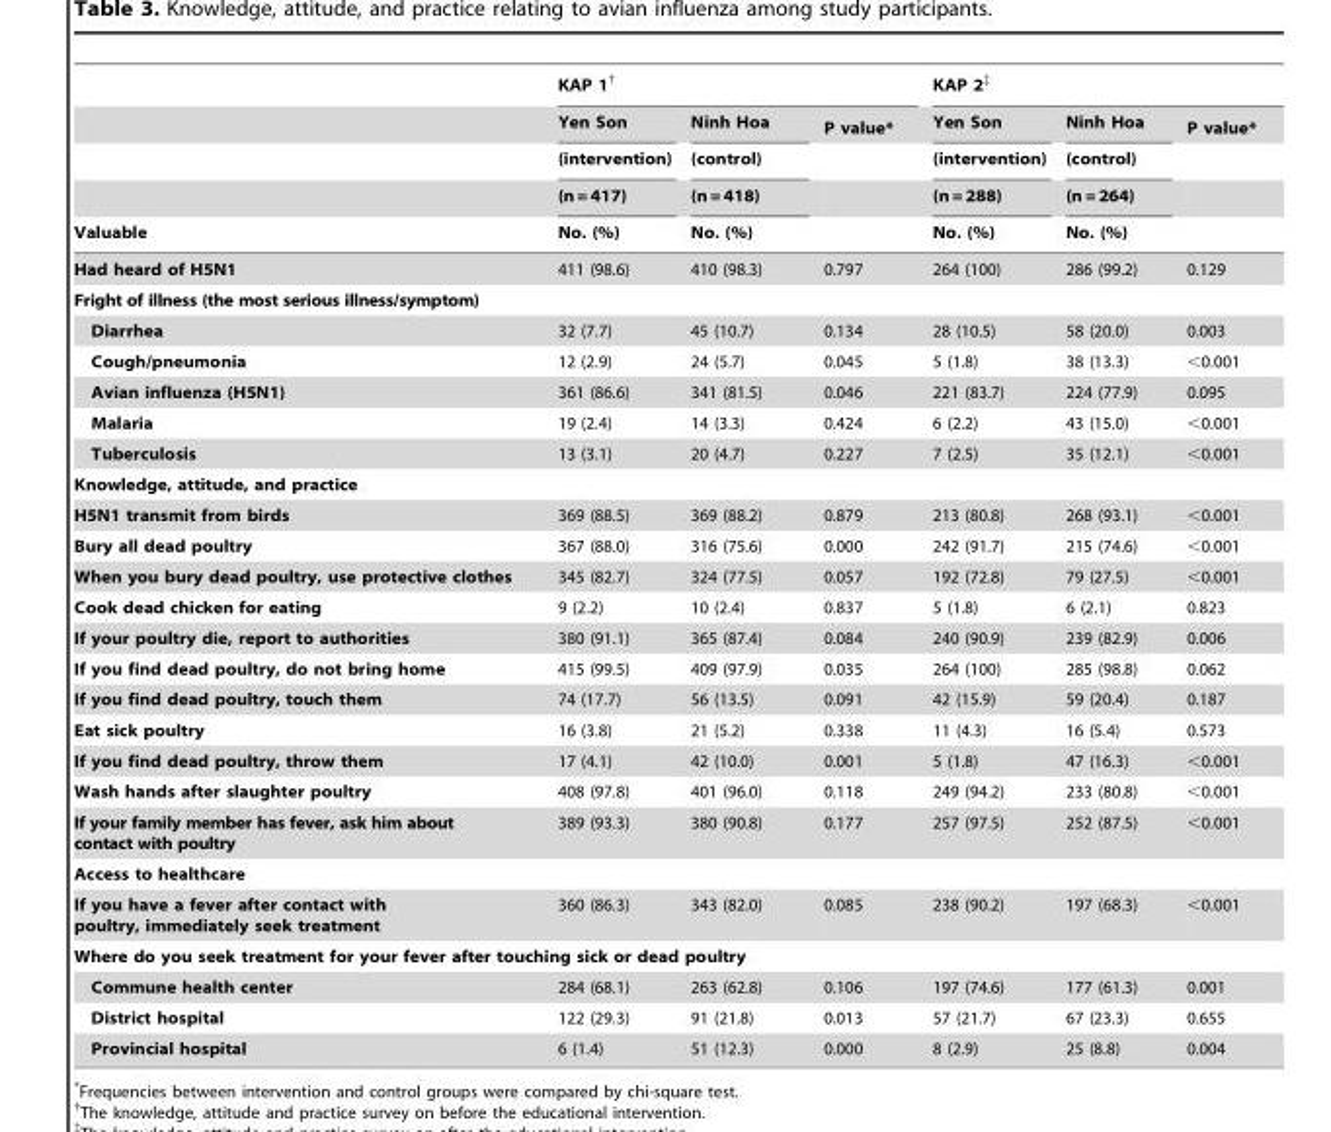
<table><thead><tr><td rowspan="5">Valuable</td><td colspan="3">KAP 1†</td><td colspan="3">KAP 2‡</td></tr><tr><td rowspan="4">Yen Son (intervention) (n = 417) No. (%)</td><td rowspan="4">Ninh Hoa (control) (n = 418) No. (%)</td><td rowspan="4">P value*</td><td rowspan="4">Yen Son (intervention) (n = 288) No. (%)</td><td rowspan="4">Ninh Hoa (control) (n = 264) No. (%)</td><td rowspan="4">P value*</td></tr><tr></tr><tr></tr><tr></tr></thead><tbody><tr><td>Had heard of H5N1</td><td>411 (98.6)</td><td>410 (98.3)</td><td>0.797</td><td>264 (100)</td><td>286 (99.2)</td><td>0.129</td></tr><tr><td colspan="7">Fright of illness (the most serious illness/symptom)</td></tr><tr><td>Diarrhea</td><td>32 (7.7)</td><td>45 (10.7)</td><td>0.134</td><td>28 (10.5)</td><td>58 (20.0)</td><td>0.003</td></tr><tr><td>Cough/pneumonia</td><td>12 (2.9)</td><td>24 (5.7)</td><td>0.045</td><td>5 (1.8)</td><td>38 (13.3)</td><td>&lt;0.001</td></tr><tr><td>Avian influenza (H5N1)</td><td>361 (86.6)</td><td>341 (81.5)</td><td>0.046</td><td>221 (83.7)</td><td>224 (77.9)</td><td>0.095</td></tr><tr><td>Malaria</td><td>19 (2.4)</td><td>14 (3.3)</td><td>0.424</td><td>6 (2.2)</td><td>43 (15.0)</td><td>&lt;0.001</td></tr><tr><td>Tuberculosis</td><td>13 (3.1)</td><td>20 (4.7)</td><td>0.227</td><td>7 (2.5)</td><td>35 (12.1)</td><td>&lt;0.001</td></tr><tr><td colspan="7">Knowledge, attitude, and practice</td></tr><tr><td>H5N1 transmit from birds</td><td>369 (88.5)</td><td>369 (88.2)</td><td>0.879</td><td>213 (80.8)</td><td>268 (93.1)</td><td>&lt;0.001</td></tr><tr><td>Bury all dead poultry</td><td>367 (88.0)</td><td>316 (75.6)</td><td>0.000</td><td>242 (91.7)</td><td>215 (74.6)</td><td>&lt;0.001</td></tr><tr><td>When you bury dead poultry, use protective clothes</td><td>345 (82.7)</td><td>324 (77.5)</td><td>0.057</td><td>192 (72.8)</td><td>79 (27.5)</td><td>&lt;0.001</td></tr><tr><td>Cook dead chicken for eating</td><td>9 (2.2)</td><td>10 (2.4)</td><td>0.837</td><td>5 (1.8)</td><td>6 (2.1)</td><td>0.823</td></tr><tr><td>If your poultry die, report to authorities</td><td>380 (91.1)</td><td>365 (87.4)</td><td>0.084</td><td>240 (90.9)</td><td>239 (82.9)</td><td>0.006</td></tr><tr><td>If you find dead poultry, do not bring home</td><td>415 (99.5)</td><td>409 (97.9)</td><td>0.035</td><td>264 (100)</td><td>285 (98.8)</td><td>0.062</td></tr><tr><td>If you find dead poultry, touch them</td><td>74 (17.7)</td><td>56 (13.5)</td><td>0.091</td><td>42 (15.9)</td><td>59 (20.4)</td><td>0.187</td></tr><tr><td>Eat sick poultry</td><td>16 (3.8)</td><td>21 (5.2)</td><td>0.338</td><td>11 (4.3)</td><td>16 (5.4)</td><td>0.573</td></tr><tr><td>If you find dead poultry, throw them</td><td>17 (4.1)</td><td>42 (10.0)</td><td>0.001</td><td>5 (1.8)</td><td>47 (16.3)</td><td>&lt;0.001</td></tr><tr><td>Wash hands after slaughter poultry</td><td>408 (97.8)</td><td>401 (96.0)</td><td>0.118</td><td>249 (94.2)</td><td>233 (80.8)</td><td>&lt;0.001</td></tr><tr><td>If your family member has fever, ask him about contact with poultry</td><td>389 (93.3)</td><td>380 (90.8)</td><td>0.177</td><td>257 (97.5)</td><td>252 (87.5)</td><td>&lt;0.001</td></tr><tr><td colspan="7">Access to healthcare</td></tr><tr><td>If you have a fever after contact with poultry, immediately seek treatment</td><td>360 (86.3)</td><td>343 (82.0)</td><td>0.085</td><td>238 (90.2)</td><td>197 (68.3)</td><td>&lt;0.001</td></tr><tr><td colspan="7">Where do you seek treatment for your fever after touching sick or dead poultry</td></tr><tr><td>Commune health center</td><td>284 (68.1)</td><td>263 (62.8)</td><td>0.106</td><td>197 (74.6)</td><td>177 (61.3)</td><td>0.001</td></tr><tr><td>District hospital</td><td>122 (29.3)</td><td>91 (21.8)</td><td>0.013</td><td>57 (21.7)</td><td>67 (23.3)</td><td>0.655</td></tr><tr><td>Provincial hospital</td><td>6 (1.4)</td><td>51 (12.3)</td><td>0.000</td><td>8 (2.9)</td><td>25 (8.8)</td><td>0.004</td></tr></tbody></table>